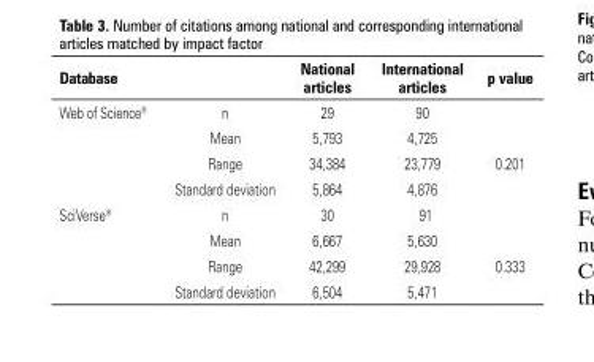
<table><thead><tr><td>Database</td><td></td><td>National articles</td><td>International articles</td><td>p value</td></tr></thead><tbody><tr><td rowspan="4">Web of Science<sup>®</sup></td><td>n</td><td>29</td><td>90</td><td></td></tr><tr><td>Mean</td><td>5,793</td><td>4,725</td><td></td></tr><tr><td>Range</td><td>34,384</td><td>23,779</td><td>0.201</td></tr><tr><td>Standard deviation</td><td>5,864</td><td>4,876</td><td></td></tr><tr><td rowspan="4">SciVerse<sup>®</sup></td><td>n</td><td>30</td><td>91</td><td></td></tr><tr><td>Mean</td><td>6,667</td><td>5,630</td><td></td></tr><tr><td>Range</td><td>42,299</td><td>29,928</td><td>0.333</td></tr><tr><td>Standard deviation</td><td>6,504</td><td>5,471</td><td></td></tr></tbody></table>